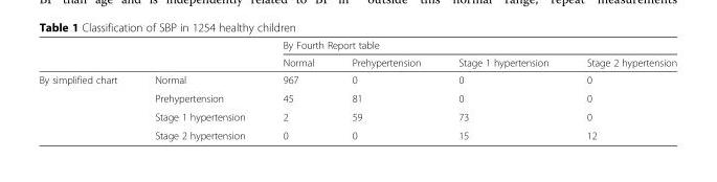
<table><thead><tr><td rowspan="2"></td><td rowspan="2"></td><td colspan="4">By Fourth Report table</td></tr><tr><td>Normal</td><td>Prehypertension</td><td>Stage 1 hypertension</td><td>Stage 2 hypertension</td></tr></thead><tbody><tr><td rowspan="4">By simplified chart</td><td>Normal</td><td>967</td><td>0</td><td>0</td><td>0</td></tr><tr><td>Prehypertension</td><td>45</td><td>81</td><td>0</td><td>0</td></tr><tr><td>Stage 1 hypertension</td><td>2</td><td>59</td><td>73</td><td>0</td></tr><tr><td>Stage 2 hypertension</td><td>0</td><td>0</td><td>15</td><td>12</td></tr></tbody></table>